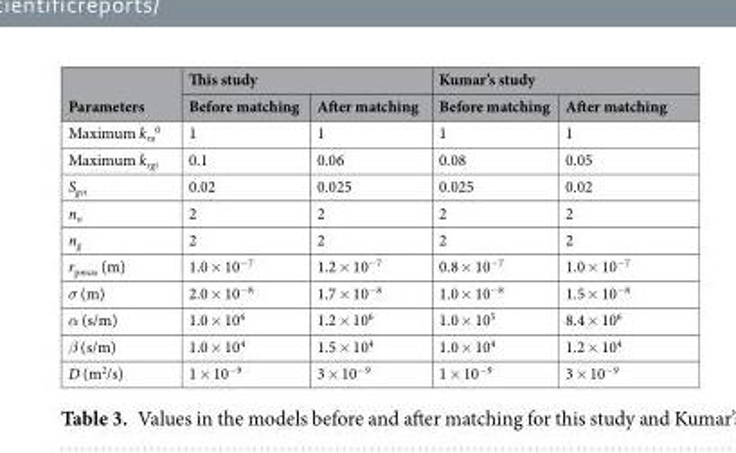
<table><thead><tr><td rowspan="2">Parameters</td><td colspan="2">This study</td><td colspan="2">Kumar’s study</td></tr><tr><td>Before matching</td><td>After matching</td><td>Before matching</td><td>After matching</td></tr></thead><tbody><tr><td>Maximum k<sub>ro</sub> <sup>0</sup></td><td>1</td><td>1</td><td>1</td><td>1</td></tr><tr><td>Maximum k<sub>rgi</sub></td><td>0.1</td><td>0.06</td><td>0.08</td><td>0.05</td></tr><tr><td>S<sub>gci</sub></td><td>0.02</td><td>0.025</td><td>0.025</td><td>0.02</td></tr><tr><td>n<sub>o</sub></td><td>2</td><td>2</td><td>2</td><td>2</td></tr><tr><td>n<sub>g</sub></td><td>2</td><td>2</td><td>2</td><td>2</td></tr><tr><td>r<sub>pmax</sub> (m)</td><td>1.0 × 10<sup>−7</sup></td><td>1.2 × 10<sup>−7</sup></td><td>0.8 × 10<sup>−7</sup></td><td>1.0 × 10<sup>−7</sup></td></tr><tr><td>σ (m)</td><td>2.0 × 10<sup>−8</sup></td><td>1.7 × 10<sup>−8</sup></td><td>1.0 × 10<sup>−8</sup></td><td>1.5 × 10<sup>−8</sup></td></tr><tr><td>α (s/m)</td><td>1.0 × 10<sup>6</sup></td><td>1.2 × 10<sup>6</sup></td><td>1.0 × 10<sup>5</sup></td><td>8.4 × 10<sup>6</sup></td></tr><tr><td>β (s/m)</td><td>1.0 × 10<sup>4</sup></td><td>1.5 × 10<sup>4</sup></td><td>1.0 × 10<sup>4</sup></td><td>1.2 × 10<sup>4</sup></td></tr><tr><td>D (m<sup>2</sup>/s)</td><td>1 × 10<sup>−9</sup></td><td>3 × 10<sup>−9</sup></td><td>1 × 10<sup>−9</sup></td><td>3 × 10<sup>−9</sup></td></tr></tbody></table>